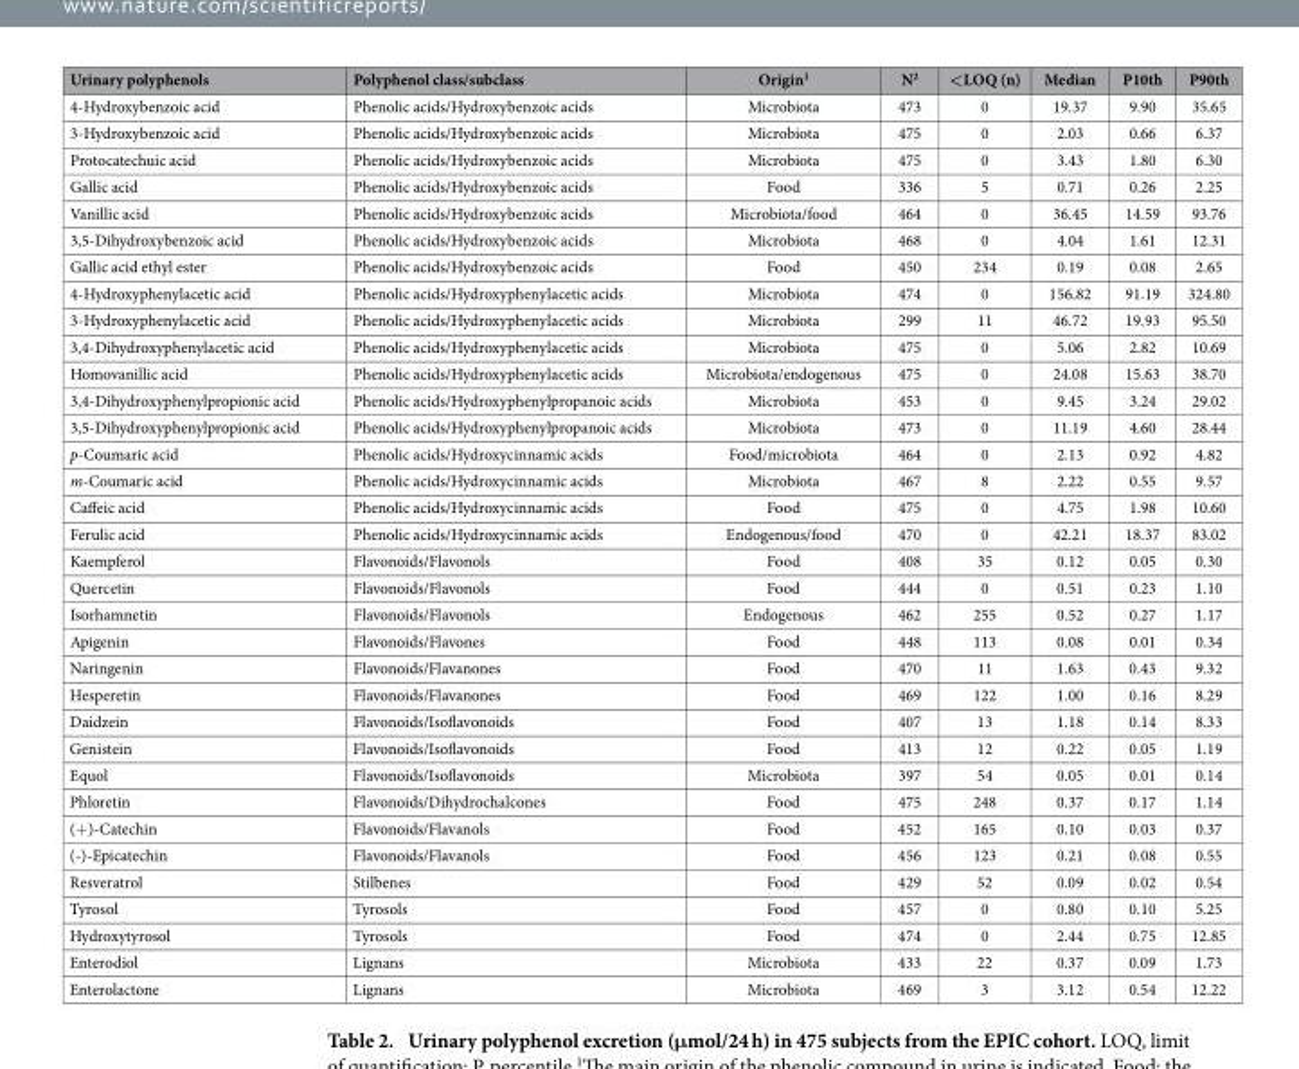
<table><thead><tr><td>Urinary polyphenols</td><td>Polyphenol class/subclass</td><td>Origin<sup>1</sup></td><td>N<sup>2</sup></td><td>&lt;LOQ (n)</td><td>Median</td><td>P10th</td><td>P90th</td></tr></thead><tbody><tr><td>4-Hydroxybenzoic acid</td><td>Phenolic acids/Hydroxybenzoic acids</td><td>Microbiota</td><td>473</td><td>0</td><td>19.37</td><td>9.90</td><td>35.65</td></tr><tr><td>3-Hydroxybenzoic acid</td><td>Phenolic acids/Hydroxybenzoic acids</td><td>Microbiota</td><td>475</td><td>0</td><td>2.03</td><td>0.66</td><td>6.37</td></tr><tr><td>Protocatechuic acid</td><td>Phenolic acids/Hydroxybenzoic acids</td><td>Microbiota</td><td>475</td><td>0</td><td>3.43</td><td>1.80</td><td>6.30</td></tr><tr><td>Gallic acid</td><td>Phenolic acids/Hydroxybenzoic acids</td><td>Food</td><td>336</td><td>5</td><td>0.71</td><td>0.26</td><td>2.25</td></tr><tr><td>Vanillic acid</td><td>Phenolic acids/Hydroxybenzoic acids</td><td>Microbiota/food</td><td>464</td><td>0</td><td>36.45</td><td>14.59</td><td>93.76</td></tr><tr><td>3,5-Dihydroxybenzoic acid</td><td>Phenolic acids/Hydroxybenzoic acids</td><td>Microbiota</td><td>468</td><td>0</td><td>4.04</td><td>1.61</td><td>12.31</td></tr><tr><td>Gallic acid ethyl ester</td><td>Phenolic acids/Hydroxybenzoic acids</td><td>Food</td><td>450</td><td>234</td><td>0.19</td><td>0.08</td><td>2.65</td></tr><tr><td>4-Hydroxyphenylacetic acid</td><td>Phenolic acids/Hydroxyphenylacetic acids</td><td>Microbiota</td><td>474</td><td>0</td><td>156.82</td><td>91.19</td><td>324.80</td></tr><tr><td>3-Hydroxyphenylacetic acid</td><td>Phenolic acids/Hydroxyphenylacetic acids</td><td>Microbiota</td><td>299</td><td>11</td><td>46.72</td><td>19.93</td><td>95.50</td></tr><tr><td>3,4-Dihydroxyphenylacetic acid</td><td>Phenolic acids/Hydroxyphenylacetic acids</td><td>Microbiota</td><td>475</td><td>0</td><td>5.06</td><td>2.82</td><td>10.69</td></tr><tr><td>Homovanillic acid</td><td>Phenolic acids/Hydroxyphenylacetic acids</td><td>Microbiota/endogenous</td><td>475</td><td>0</td><td>24.08</td><td>15.63</td><td>38.70</td></tr><tr><td>3,4-Dihydroxyphenylpropionic acid</td><td>Phenolic acids/Hydroxyphenylpropanoic acids</td><td>Microbiota</td><td>453</td><td>0</td><td>9.45</td><td>3.24</td><td>29.02</td></tr><tr><td>3,5-Dihydroxyphenylpropionic acid</td><td>Phenolic acids/Hydroxyphenylpropanoic acids</td><td>Microbiota</td><td>473</td><td>0</td><td>11.19</td><td>4.60</td><td>28.44</td></tr><tr><td>p-Coumaric acid</td><td>Phenolic acids/Hydroxycinnamic acids</td><td>Food/microbiota</td><td>464</td><td>0</td><td>2.13</td><td>0.92</td><td>4.82</td></tr><tr><td>m-Coumaric acid</td><td>Phenolic acids/Hydroxycinnamic acids</td><td>Microbiota</td><td>467</td><td>8</td><td>2.22</td><td>0.55</td><td>9.57</td></tr><tr><td>Caffeic acid</td><td>Phenolic acids/Hydroxycinnamic acids</td><td>Food</td><td>475</td><td>0</td><td>4.75</td><td>1.98</td><td>10.60</td></tr><tr><td>Ferulic acid</td><td>Phenolic acids/Hydroxycinnamic acids</td><td>Endogenous/food</td><td>470</td><td>0</td><td>42.21</td><td>18.37</td><td>83.02</td></tr><tr><td>Kaempferol</td><td>Flavonoids/Flavonols</td><td>Food</td><td>408</td><td>35</td><td>0.12</td><td>0.05</td><td>0.30</td></tr><tr><td>Quercetin</td><td>Flavonoids/Flavonols</td><td>Food</td><td>444</td><td>0</td><td>0.51</td><td>0.23</td><td>1.10</td></tr><tr><td>Isorhamnetin</td><td>Flavonoids/Flavonols</td><td>Endogenous</td><td>462</td><td>255</td><td>0.52</td><td>0.27</td><td>1.17</td></tr><tr><td>Apigenin</td><td>Flavonoids/Flavones</td><td>Food</td><td>448</td><td>113</td><td>0.08</td><td>0.01</td><td>0.34</td></tr><tr><td>Naringenin</td><td>Flavonoids/Flavanones</td><td>Food</td><td>470</td><td>11</td><td>1.63</td><td>0.43</td><td>9.32</td></tr><tr><td>Hesperetin</td><td>Flavonoids/Flavanones</td><td>Food</td><td>469</td><td>122</td><td>1.00</td><td>0.16</td><td>8.29</td></tr><tr><td>Daidzein</td><td>Flavonoids/Isoflavonoids</td><td>Food</td><td>407</td><td>13</td><td>1.18</td><td>0.14</td><td>8.33</td></tr><tr><td>Genistein</td><td>Flavonoids/Isoflavonoids</td><td>Food</td><td>413</td><td>12</td><td>0.22</td><td>0.05</td><td>1.19</td></tr><tr><td>Equol</td><td>Flavonoids/Isoflavonoids</td><td>Microbiota</td><td>397</td><td>54</td><td>0.05</td><td>0.01</td><td>0.14</td></tr><tr><td>Phloretin</td><td>Flavonoids/Dihydrochalcones</td><td>Food</td><td>475</td><td>248</td><td>0.37</td><td>0.17</td><td>1.14</td></tr><tr><td>(+ )-Catechin</td><td>Flavonoids/Flavanols</td><td>Food</td><td>452</td><td>165</td><td>0.10</td><td>0.03</td><td>0.37</td></tr><tr><td>(-)-Epicatechin</td><td>Flavonoids/Flavanols</td><td>Food</td><td>456</td><td>123</td><td>0.21</td><td>0.08</td><td>0.55</td></tr><tr><td>Resveratrol</td><td>Stilbenes</td><td>Food</td><td>429</td><td>52</td><td>0.09</td><td>0.02</td><td>0.54</td></tr><tr><td>Tyrosol</td><td>Tyrosols</td><td>Food</td><td>457</td><td>0</td><td>0.80</td><td>0.10</td><td>5.25</td></tr><tr><td>Hydroxytyrosol</td><td>Tyrosols</td><td>Food</td><td>474</td><td>0</td><td>2.44</td><td>0.75</td><td>12.85</td></tr><tr><td>Enterodiol</td><td>Lignans</td><td>Microbiota</td><td>433</td><td>22</td><td>0.37</td><td>0.09</td><td>1.73</td></tr><tr><td>Enterolactone</td><td>Lignans</td><td>Microbiota</td><td>469</td><td>3</td><td>3.12</td><td>0.54</td><td>12.22</td></tr></tbody></table>